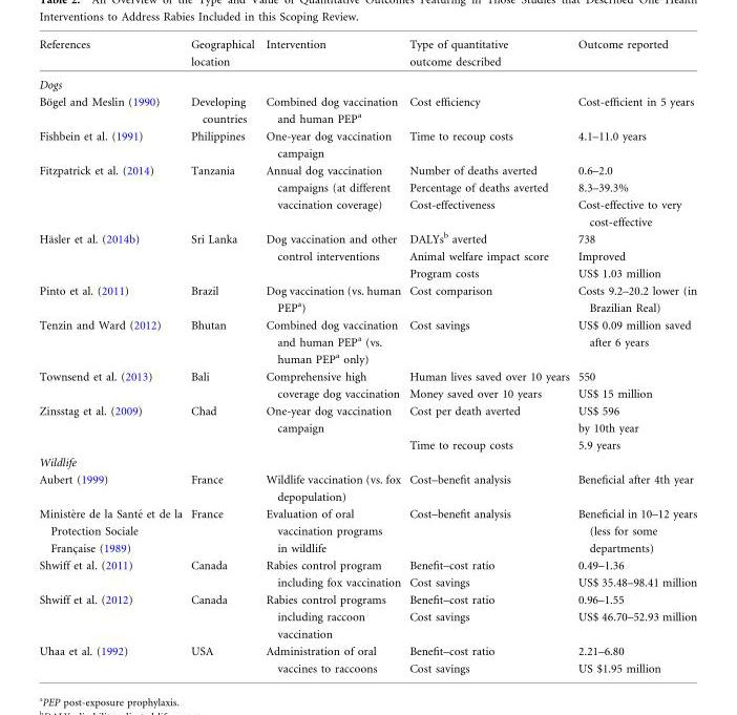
<table><thead><tr><td>References</td><td>Geographical location</td><td>Intervention</td><td>Type of quantitative outcome described</td><td>Outcome reported</td></tr></thead><tbody><tr><td colspan="5">Dogs</td></tr><tr><td>Bo¨gel and Meslin (1990)</td><td>Developing countries</td><td>Combined dog vaccination and human PEP<sup>a</sup></td><td>Cost efficiency</td><td>Cost-efficient in 5 years</td></tr><tr><td>Fishbein et al. (1991)</td><td>Philippines</td><td>One-year dog vaccination campaign</td><td>Time to recoup costs</td><td>4.1–11.0 years</td></tr><tr><td rowspan="3">Fitzpatrick et al. (2014)</td><td rowspan="3">Tanzania</td><td rowspan="3">Annual dog vaccination campaigns (at different vaccination coverage)</td><td>Number of deaths averted</td><td>0.6–2.0</td></tr><tr><td>Percentage of deaths averted</td><td>8.3–39.3%</td></tr><tr><td>Cost-effectiveness</td><td>Cost-effective to very cost-effective</td></tr><tr><td rowspan="3">Ha¨sler et al. (2014b)</td><td rowspan="3">Sri Lanka</td><td rowspan="3">Dog vaccination and other control interventions</td><td>DALYs<sup>b</sup> averted</td><td>738</td></tr><tr><td>Animal welfare impact score</td><td>Improved</td></tr><tr><td>Program costs</td><td>US$ 1.03 million</td></tr><tr><td>Pinto et al. (2011)</td><td>Brazil</td><td>Dog vaccination (vs. human PEP<sup>a</sup>)</td><td>Cost comparison</td><td>Costs 9.2–20.2 lower (in Brazilian Real)</td></tr><tr><td>Tenzin and Ward (2012)</td><td>Bhutan</td><td>Combined dog vaccination and human PEP<sup>a</sup> (vs. human PEP<sup>a</sup> only)</td><td>Cost savings</td><td>US$ 0.09 million saved after 6 years</td></tr><tr><td rowspan="2">Townsend et al. (2013)</td><td rowspan="2">Bali</td><td rowspan="2">Comprehensive high coverage dog vaccination</td><td>Human lives saved over 10 years</td><td>550</td></tr><tr><td>Money saved over 10 years</td><td>US$ 15 million</td></tr><tr><td rowspan="2">Zinsstag et al. (2009)</td><td rowspan="2">Chad</td><td rowspan="2">One-year dog vaccination campaign</td><td>Cost per death averted</td><td>US$ 596 by 10th year</td></tr><tr><td>Time to recoup costs</td><td>5.9 years</td></tr><tr><td colspan="5">Wildlife</td></tr><tr><td>Aubert (1999)</td><td>France</td><td>Wildlife vaccination (vs. fox depopulation)</td><td>Cost–benefit analysis</td><td>Beneficial after 4th year</td></tr><tr><td>Ministe`re de la Sante´ et de la Protection Sociale Franc¸aise (1989)</td><td>France</td><td>Evaluation of oral vaccination programs in wildlife</td><td>Cost–benefit analysis</td><td>Beneficial in 10–12 years (less for some departments)</td></tr><tr><td rowspan="2">Shwiff et al. (2011)</td><td rowspan="2">Canada</td><td rowspan="2">Rabies control program including fox vaccination</td><td>Benefit–cost ratio</td><td>0.49–1.36</td></tr><tr><td>Cost savings</td><td>US$ 35.48–98.41 million</td></tr><tr><td rowspan="2">Shwiff et al. (2012)</td><td rowspan="2">Canada</td><td rowspan="2">Rabies control programs including raccoon vaccination</td><td>Benefit–cost ratio</td><td>0.96–1.55</td></tr><tr><td>Cost savings</td><td>US$ 46.70–52.93 million</td></tr><tr><td rowspan="2">Uhaa et al. (1992)</td><td rowspan="2">USA</td><td rowspan="2">Administration of oral vaccines to raccoons</td><td>Benefit–cost ratio</td><td>2.21–6.80</td></tr><tr><td>Cost savings</td><td>US $1.95 million</td></tr></tbody></table>